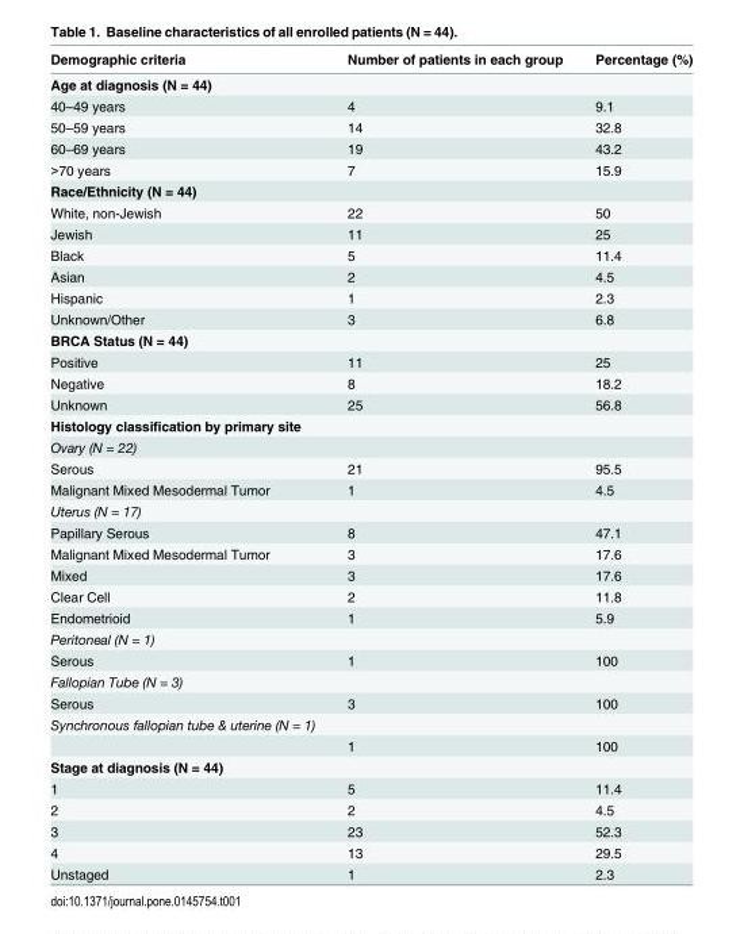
<table><thead><tr><td>Demographic criteria</td><td>Number of patients in each group</td><td>Percentage (%)</td></tr></thead><tbody><tr><td colspan="3">Age at diagnosis (N = 44)</td></tr><tr><td>40–49 years</td><td>4</td><td>9.1</td></tr><tr><td>50–59 years</td><td>14</td><td>32.8</td></tr><tr><td>60–69 years</td><td>19</td><td>43.2</td></tr><tr><td>&gt;70 years</td><td>7</td><td>15.9</td></tr><tr><td colspan="3">Race/Ethnicity (N = 44)</td></tr><tr><td>White, non-Jewish</td><td>22</td><td>50</td></tr><tr><td>Jewish</td><td>11</td><td>25</td></tr><tr><td>Black</td><td>5</td><td>11.4</td></tr><tr><td>Asian</td><td>2</td><td>4.5</td></tr><tr><td>Hispanic</td><td>1</td><td>2.3</td></tr><tr><td>Unknown/Other</td><td>3</td><td>6.8</td></tr><tr><td colspan="3">BRCA Status (N = 44)</td></tr><tr><td>Positive</td><td>11</td><td>25</td></tr><tr><td>Negative</td><td>8</td><td>18.2</td></tr><tr><td>Unknown</td><td>25</td><td>56.8</td></tr><tr><td colspan="3">Histology classification by primary site</td></tr><tr><td colspan="3">Ovary (N = 22)</td></tr><tr><td>Serous</td><td>21</td><td>95.5</td></tr><tr><td>Malignant Mixed Mesodermal Tumor</td><td>1</td><td>4.5</td></tr><tr><td colspan="3">Uterus (N = 17)</td></tr><tr><td>Papillary Serous</td><td>8</td><td>47.1</td></tr><tr><td>Malignant Mixed Mesodermal Tumor</td><td>3</td><td>17.6</td></tr><tr><td>Mixed</td><td>3</td><td>17.6</td></tr><tr><td>Clear Cell</td><td>2</td><td>11.8</td></tr><tr><td>Endometrioid</td><td>1</td><td>5.9</td></tr><tr><td colspan="3">Peritoneal (N = 1)</td></tr><tr><td>Serous</td><td>1</td><td>100</td></tr><tr><td colspan="3">Fallopian Tube (N = 3)</td></tr><tr><td>Serous</td><td>3</td><td>100</td></tr><tr><td colspan="3">Synchronous fallopian tube &amp; uterine (N = 1)</td></tr><tr><td></td><td>1</td><td>100</td></tr><tr><td colspan="3">Stage at diagnosis (N = 44)</td></tr><tr><td>1</td><td>5</td><td>11.4</td></tr><tr><td>2</td><td>2</td><td>4.5</td></tr><tr><td>3</td><td>23</td><td>52.3</td></tr><tr><td>4</td><td>13</td><td>29.5</td></tr><tr><td>Unstaged</td><td>1</td><td>2.3</td></tr></tbody></table>